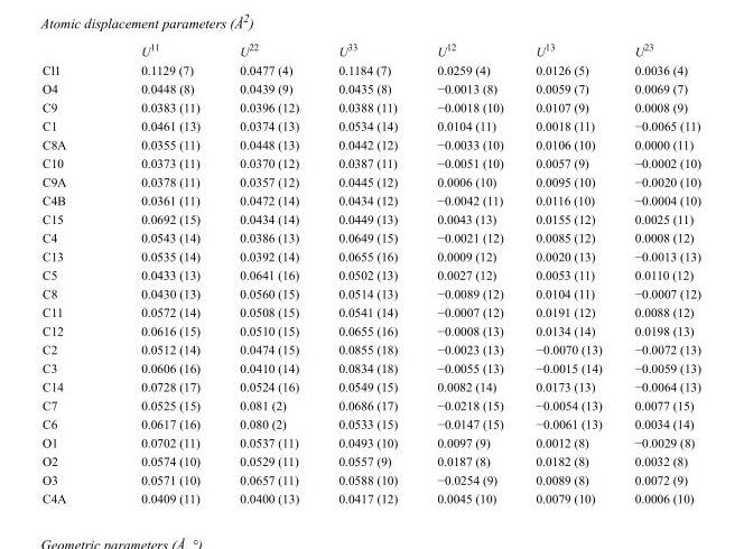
<table><thead><tr><td></td><td>U<sup>11</sup></td><td>U<sup>22</sup></td><td>U<sup>33</sup></td><td>U<sup>12</sup></td><td>U<sup>13</sup></td><td>U<sup>23</sup></td></tr></thead><tbody><tr><td>Cl1</td><td>0.1129 (7)</td><td>0.0477 (4)</td><td>0.1184 (7)</td><td>0.0259 (4)</td><td>0.0126 (5)</td><td>0.0036 (4)</td></tr><tr><td>O4</td><td>0.0448 (8)</td><td>0.0439 (9)</td><td>0.0435 (8)</td><td>−0.0013 (8)</td><td>0.0059 (7)</td><td>0.0069 (7)</td></tr><tr><td>C9</td><td>0.0383 (11)</td><td>0.0396 (12)</td><td>0.0388 (11)</td><td>−0.0018 (10)</td><td>0.0107 (9)</td><td>0.0008 (9)</td></tr><tr><td>C1</td><td>0.0461 (13)</td><td>0.0374 (13)</td><td>0.0534 (14)</td><td>0.0104 (11)</td><td>0.0018 (11)</td><td>−0.0065 (11)</td></tr><tr><td>C8A</td><td>0.0355 (11)</td><td>0.0448 (13)</td><td>0.0442 (12)</td><td>−0.0033 (10)</td><td>0.0106 (10)</td><td>0.0000 (11)</td></tr><tr><td>C10</td><td>0.0373 (11)</td><td>0.0370 (12)</td><td>0.0387 (11)</td><td>−0.0051 (10)</td><td>0.0057 (9)</td><td>−0.0002 (10)</td></tr><tr><td>C9A</td><td>0.0378 (11)</td><td>0.0357 (12)</td><td>0.0445 (12)</td><td>0.0006 (10)</td><td>0.0095 (10)</td><td>−0.0020 (10)</td></tr><tr><td>C4B</td><td>0.0361 (11)</td><td>0.0472 (14)</td><td>0.0434 (12)</td><td>−0.0042 (11)</td><td>0.0116 (10)</td><td>−0.0004 (10)</td></tr><tr><td>C15</td><td>0.0692 (15)</td><td>0.0434 (14)</td><td>0.0449 (13)</td><td>0.0043 (13)</td><td>0.0155 (12)</td><td>0.0025 (11)</td></tr><tr><td>C4</td><td>0.0543 (14)</td><td>0.0386 (13)</td><td>0.0649 (15)</td><td>−0.0021 (12)</td><td>0.0085 (12)</td><td>0.0008 (12)</td></tr><tr><td>C13</td><td>0.0535 (14)</td><td>0.0392 (14)</td><td>0.0655 (16)</td><td>0.0009 (12)</td><td>0.0020 (13)</td><td>−0.0013 (13)</td></tr><tr><td>C5</td><td>0.0433 (13)</td><td>0.0641 (16)</td><td>0.0502 (13)</td><td>0.0027 (12)</td><td>0.0053 (11)</td><td>0.0110 (12)</td></tr><tr><td>C8</td><td>0.0430 (13)</td><td>0.0560 (15)</td><td>0.0514 (13)</td><td>−0.0089 (12)</td><td>0.0104 (11)</td><td>−0.0007 (12)</td></tr><tr><td>C11</td><td>0.0572 (14)</td><td>0.0508 (15)</td><td>0.0541 (14)</td><td>−0.0007 (12)</td><td>0.0191 (12)</td><td>0.0088 (12)</td></tr><tr><td>C12</td><td>0.0616 (15)</td><td>0.0510 (15)</td><td>0.0655 (16)</td><td>−0.0008 (13)</td><td>0.0134 (14)</td><td>0.0198 (13)</td></tr><tr><td>C2</td><td>0.0512 (14)</td><td>0.0474 (15)</td><td>0.0855 (18)</td><td>−0.0023 (13)</td><td>−0.0070 (13)</td><td>−0.0072 (13)</td></tr><tr><td>C3</td><td>0.0606 (16)</td><td>0.0410 (14)</td><td>0.0834 (18)</td><td>−0.0055 (13)</td><td>−0.0015 (14)</td><td>−0.0059 (13)</td></tr><tr><td>C14</td><td>0.0728 (17)</td><td>0.0524 (16)</td><td>0.0549 (15)</td><td>0.0082 (14)</td><td>0.0173 (13)</td><td>−0.0064 (13)</td></tr><tr><td>C7</td><td>0.0525 (15)</td><td>0.081 (2)</td><td>0.0686 (17)</td><td>−0.0218 (15)</td><td>−0.0054 (13)</td><td>0.0077 (15)</td></tr><tr><td>C6</td><td>0.0617 (16)</td><td>0.080 (2)</td><td>0.0533 (15)</td><td>−0.0147 (15)</td><td>−0.0061 (13)</td><td>0.0034 (14)</td></tr><tr><td>O1</td><td>0.0702 (11)</td><td>0.0537 (11)</td><td>0.0493 (10)</td><td>0.0097 (9)</td><td>0.0012 (8)</td><td>−0.0029 (8)</td></tr><tr><td>O2</td><td>0.0574 (10)</td><td>0.0529 (11)</td><td>0.0557 (9)</td><td>0.0187 (8)</td><td>0.0182 (8)</td><td>0.0032 (8)</td></tr><tr><td>O3</td><td>0.0571 (10)</td><td>0.0657 (11)</td><td>0.0588 (10)</td><td>−0.0254 (9)</td><td>0.0089 (8)</td><td>0.0072 (9)</td></tr><tr><td>C4A</td><td>0.0409 (11)</td><td>0.0400 (13)</td><td>0.0417 (12)</td><td>0.0045 (10)</td><td>0.0079 (10)</td><td>0.0006 (10)</td></tr></tbody></table>